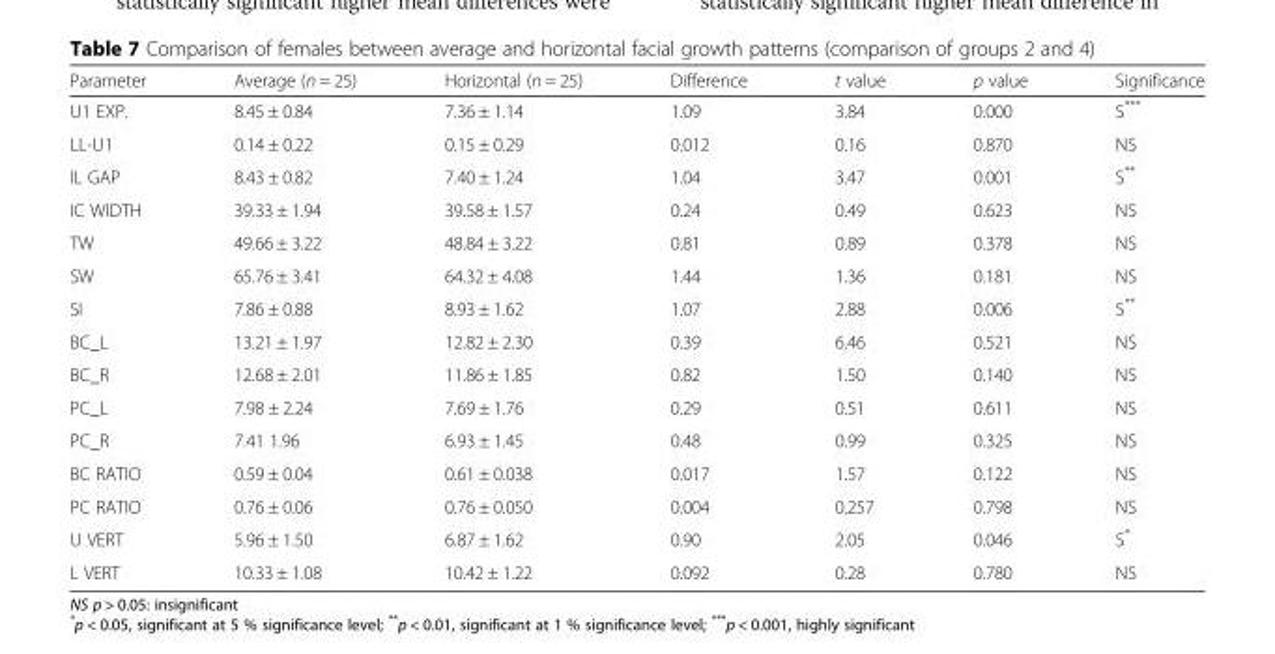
<table><thead><tr><td>Parameter</td><td>Average (n = 25)</td><td>Horizontal (n = 25)</td><td>Difference</td><td>t value</td><td>p value</td><td>Significance</td></tr></thead><tbody><tr><td>U1 EXP.</td><td>8.45 ± 0.84</td><td>7.36 ± 1.14</td><td>1.09</td><td>3.84</td><td>0.000</td><td>S***</td></tr><tr><td>LL-U1</td><td>0.14 ± 0.22</td><td>0.15 ± 0.29</td><td>0.012</td><td>0.16</td><td>0.870</td><td>NS</td></tr><tr><td>IL GAP</td><td>8.43 ± 0.82</td><td>7.40 ± 1.24</td><td>1.04</td><td>3.47</td><td>0.001</td><td>S**</td></tr><tr><td>IC WIDTH</td><td>39.33 ± 1.94</td><td>39.58 ± 1.57</td><td>0.24</td><td>0.49</td><td>0.623</td><td>NS</td></tr><tr><td>TW</td><td>49.66 ± 3.22</td><td>48.84 ± 3.22</td><td>0.81</td><td>0.89</td><td>0.378</td><td>NS</td></tr><tr><td>SW</td><td>65.76 ± 3.41</td><td>64.32 ± 4.08</td><td>1.44</td><td>1.36</td><td>0.181</td><td>NS</td></tr><tr><td>SI</td><td>7.86 ± 0.88</td><td>8.93 ± 1.62</td><td>1.07</td><td>2.88</td><td>0.006</td><td>S**</td></tr><tr><td>BC_L</td><td>13.21 ± 1.97</td><td>12.82 ± 2.30</td><td>0.39</td><td>6.46</td><td>0.521</td><td>NS</td></tr><tr><td>BC_R</td><td>12.68 ± 2.01</td><td>11.86 ± 1.85</td><td>0.82</td><td>1.50</td><td>0.140</td><td>NS</td></tr><tr><td>PC_L</td><td>7.98 ± 2.24</td><td>7.69 ± 1.76</td><td>0.29</td><td>0.51</td><td>0.611</td><td>NS</td></tr><tr><td>PC_R</td><td>7.41 1.96</td><td>6.93 ± 1.45</td><td>0.48</td><td>0.99</td><td>0.325</td><td>NS</td></tr><tr><td>BC RATIO</td><td>0.59 ± 0.04</td><td>0.61 ± 0.038</td><td>0.017</td><td>1.57</td><td>0.122</td><td>NS</td></tr><tr><td>PC RATIO</td><td>0.76 ± 0.06</td><td>0.76 ± 0.050</td><td>0.004</td><td>0.257</td><td>0.798</td><td>NS</td></tr><tr><td>U VERT</td><td>5.96 ± 1.50</td><td>6.87 ± 1.62</td><td>0.90</td><td>2.05</td><td>0.046</td><td>S*</td></tr><tr><td>L VERT</td><td>10.33 ± 1.08</td><td>10.42 ± 1.22</td><td>0.092</td><td>0.28</td><td>0.780</td><td>NS</td></tr></tbody></table>